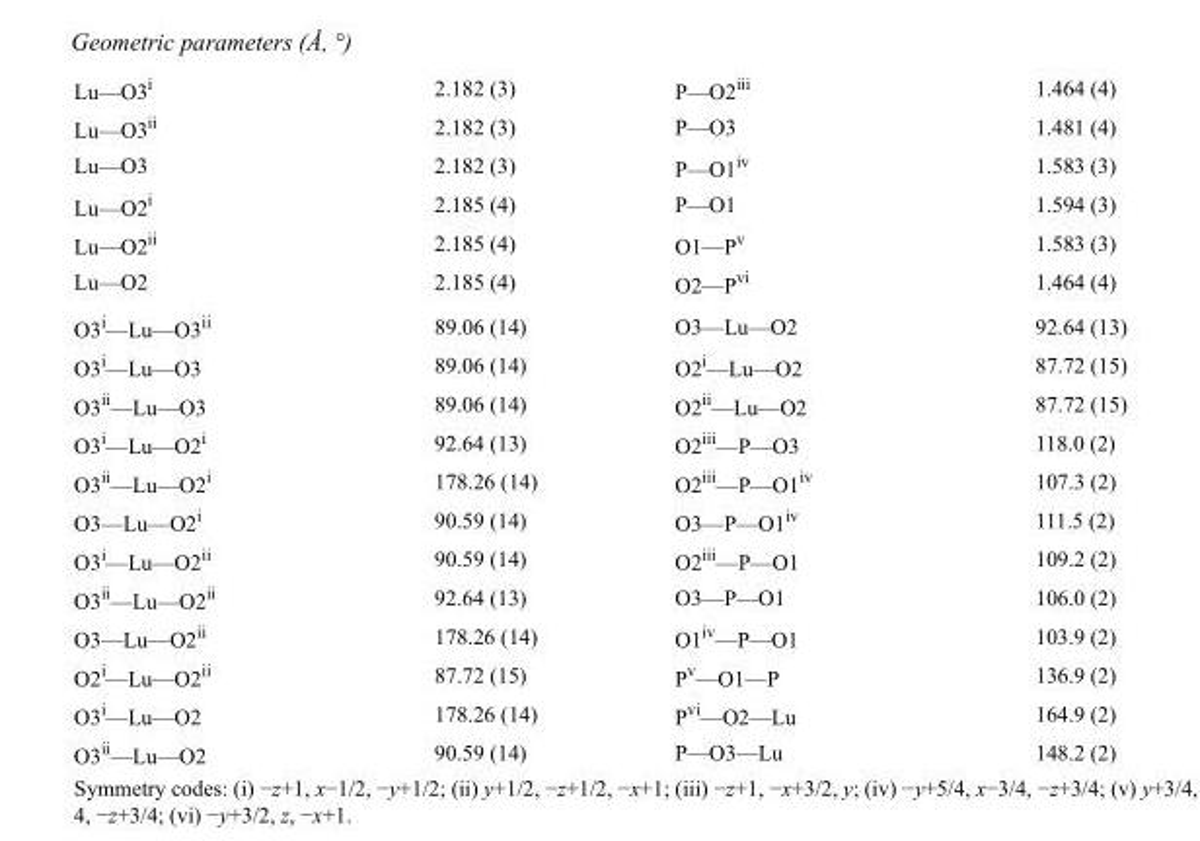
<table><tbody><tr><td>Lu—O3<sup>i</sup></td><td>2.182 (3)</td><td>P—O2<sup>iii</sup></td><td>1.464 (4)</td></tr><tr><td>Lu—O3<sup>ii</sup></td><td>2.182 (3)</td><td>P—O3</td><td>1.481 (4)</td></tr><tr><td>Lu—O3</td><td>2.182 (3)</td><td>P—O1<sup>iv</sup></td><td>1.583 (3)</td></tr><tr><td>Lu—O2<sup>i</sup></td><td>2.185 (4)</td><td>P—O1</td><td>1.594 (3)</td></tr><tr><td>Lu—O2<sup>ii</sup></td><td>2.185 (4)</td><td>O1—P<sup>v</sup></td><td>1.583 (3)</td></tr><tr><td>Lu—O2</td><td>2.185 (4)</td><td>O2—P<sup>vi</sup></td><td>1.464 (4)</td></tr><tr><td>O3<sup>i</sup>—Lu—O3<sup>ii</sup></td><td>89.06 (14)</td><td>O3—Lu—O2</td><td>92.64 (13)</td></tr><tr><td>O3<sup>i</sup>—Lu—O3</td><td>89.06 (14)</td><td>O2<sup>i</sup>—Lu—O2</td><td>87.72 (15)</td></tr><tr><td>O3<sup>ii</sup>—Lu—O3</td><td>89.06 (14)</td><td>O2<sup>ii</sup>—Lu—O2</td><td>87.72 (15)</td></tr><tr><td>O3<sup>i</sup>—Lu—O2<sup>i</sup></td><td>92.64 (13)</td><td>O2<sup>iii</sup>—P—O3</td><td>118.0 (2)</td></tr><tr><td>O3<sup>ii</sup>—Lu—O2<sup>i</sup></td><td>178.26 (14)</td><td>O2<sup>iii</sup>—P—O1<sup>iv</sup></td><td>107.3 (2)</td></tr><tr><td>O3—Lu—O2<sup>i</sup></td><td>90.59 (14)</td><td>O3—P—O1<sup>iv</sup></td><td>111.5 (2)</td></tr><tr><td>O3<sup>i</sup>—Lu—O2<sup>ii</sup></td><td>90.59 (14)</td><td>O2<sup>iii</sup>—P—O1</td><td>109.2 (2)</td></tr><tr><td>O3<sup>ii</sup>—Lu—O2<sup>ii</sup></td><td>92.64 (13)</td><td>O3—P—O1</td><td>106.0 (2)</td></tr><tr><td>O3—Lu—O2<sup>ii</sup></td><td>178.26 (14)</td><td>O1<sup>iv</sup>—P—O1</td><td>103.9 (2)</td></tr><tr><td>O2<sup>i</sup>—Lu—O2<sup>ii</sup></td><td>87.72 (15)</td><td>P<sup>v</sup>—O1—P</td><td>136.9 (2)</td></tr><tr><td>O3<sup>i</sup>—Lu—O2</td><td>178.26 (14)</td><td>P<sup>vi</sup>—O2—Lu</td><td>164.9 (2)</td></tr><tr><td>O3<sup>ii</sup>—Lu—O2</td><td>90.59 (14)</td><td>P—O3—Lu</td><td>148.2 (2)</td></tr></tbody></table>